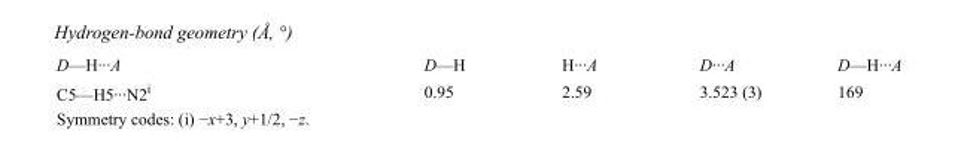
<table><tbody><tr><td>D—H···A</td><td>D—H</td><td>H···A</td><td>D···A</td><td>D—H···A</td></tr><tr><td>C5—H5···N2<sup>i</sup></td><td>0.95</td><td>2.59</td><td>3.523 (3)</td><td>169</td></tr></tbody></table>